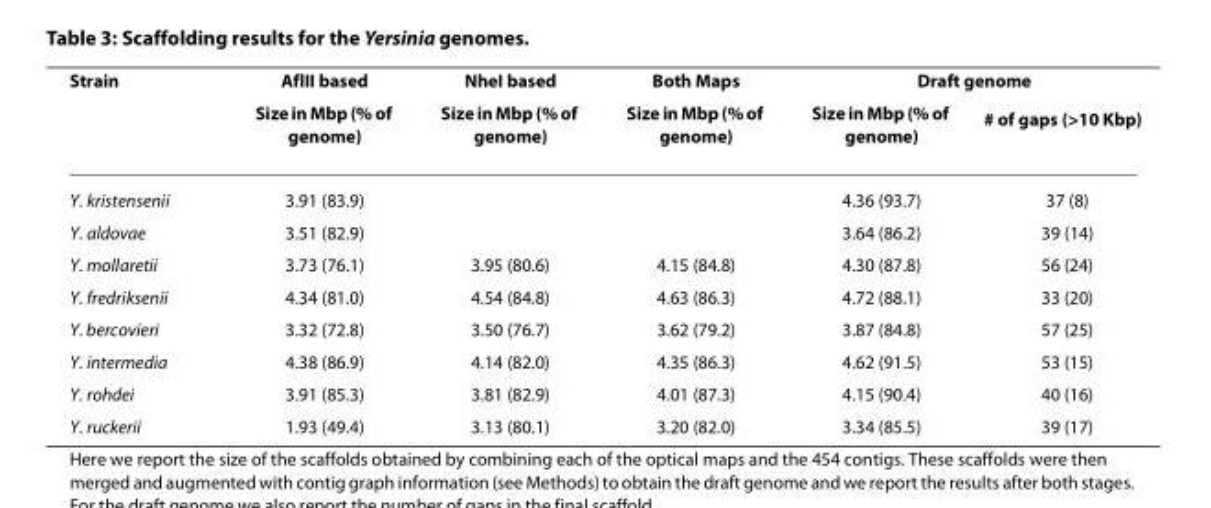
<table><thead><tr><td rowspan="2">Strain</td><td rowspan="2">AflII based Size in Mbp (% of genome)</td><td rowspan="2">NheI based Size in Mbp (% of genome)</td><td rowspan="2">Both Maps Size in Mbp (% of genome)</td><td colspan="2">Draft genome</td></tr><tr><td>Size in Mbp (% of genome)</td><td># of gaps (&gt;10 Kbp)</td></tr></thead><tbody><tr><td>Y. kristensenii</td><td>3.91 (83.9)</td><td></td><td></td><td>4.36 (93.7)</td><td>37 (8)</td></tr><tr><td>Y. aldovae</td><td>3.51 (82.9)</td><td></td><td></td><td>3.64 (86.2)</td><td>39 (14)</td></tr><tr><td>Y. mollaretii</td><td>3.73 (76.1)</td><td>3.95 (80.6)</td><td>4.15 (84.8)</td><td>4.30 (87.8)</td><td>56 (24)</td></tr><tr><td>Y. fredriksenii</td><td>4.34 (81.0)</td><td>4.54 (84.8)</td><td>4.63 (86.3)</td><td>4.72 (88.1)</td><td>33 (20)</td></tr><tr><td>Y. bercovieri</td><td>3.32 (72.8)</td><td>3.50 (76.7)</td><td>3.62 (79.2)</td><td>3.87 (84.8)</td><td>57 (25)</td></tr><tr><td>Y. intermedia</td><td>4.38 (86.9)</td><td>4.14 (82.0)</td><td>4.35 (86.3)</td><td>4.62 (91.5)</td><td>53 (15)</td></tr><tr><td>Y. rohdei</td><td>3.91 (85.3)</td><td>3.81 (82.9)</td><td>4.01 (87.3)</td><td>4.15 (90.4)</td><td>40 (16)</td></tr><tr><td>Y. ruckerii</td><td>1.93 (49.4)</td><td>3.13 (80.1)</td><td>3.20 (82.0)</td><td>3.34 (85.5)</td><td>39 (17)</td></tr></tbody></table>